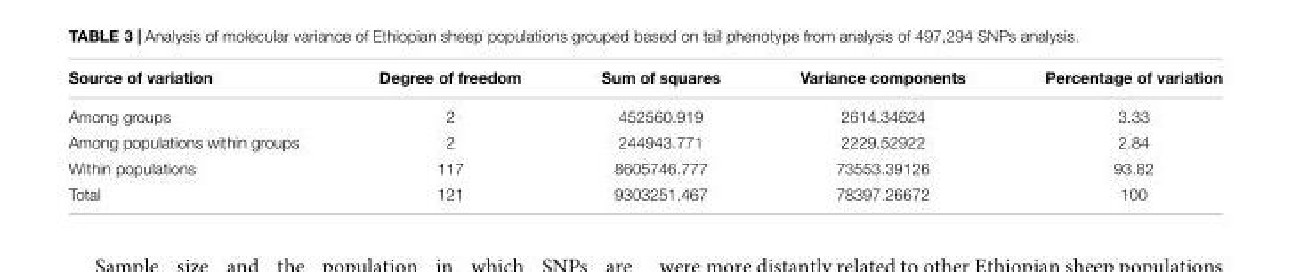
<table><thead><tr><td>Source of variation</td><td>Degree of freedom</td><td>Sum of squares</td><td>Variance components</td><td>Percentage of variation</td></tr></thead><tbody><tr><td>Among groups</td><td>2</td><td>452560.919</td><td>2614.34624</td><td>3.33</td></tr><tr><td>Among populations within groups</td><td>2</td><td>244943.771</td><td>2229.52922</td><td>2.84</td></tr><tr><td>Within populations</td><td>117</td><td>8605746.777</td><td>73553.39126</td><td>93.82</td></tr><tr><td>Total</td><td>121</td><td>9303251.467</td><td>78397.26672</td><td>100</td></tr></tbody></table>